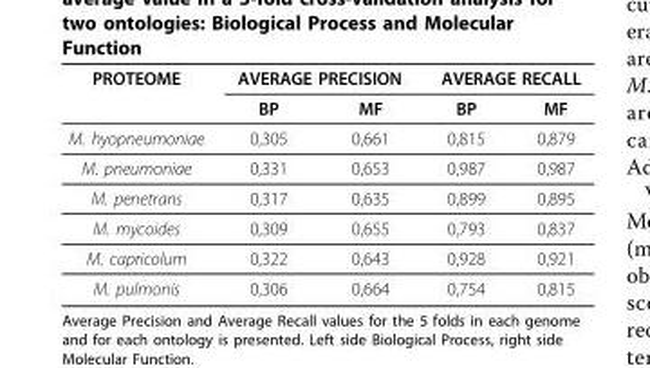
<table><thead><tr><td rowspan="2">PROTEOME</td><td colspan="2">AVERAGE PRECISION</td><td colspan="2">AVERAGE RECALL</td></tr><tr><td>BP</td><td>MF</td><td>BP</td><td>MF</td></tr></thead><tbody><tr><td>M. hyopneumoniae</td><td>0,305</td><td>0,661</td><td>0,815</td><td>0,879</td></tr><tr><td>M. pneumoniae</td><td>0,331</td><td>0,653</td><td>0,987</td><td>0,987</td></tr><tr><td>M. penetrans</td><td>0,317</td><td>0,635</td><td>0,899</td><td>0,895</td></tr><tr><td>M. mycoides</td><td>0,309</td><td>0,655</td><td>0,793</td><td>0,837</td></tr><tr><td>M. capricolum</td><td>0,322</td><td>0,643</td><td>0,928</td><td>0,921</td></tr><tr><td>M. pulmonis</td><td>0,306</td><td>0,664</td><td>0,754</td><td>0,815</td></tr></tbody></table>